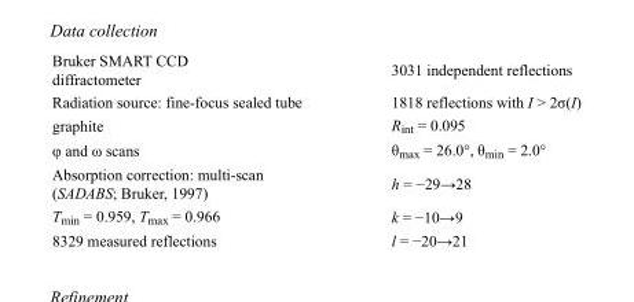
<table><tbody><tr><td>Bruker SMART CCD diffractometer</td><td>3031 independent reflections</td></tr><tr><td>Radiation source: fine-focus sealed tube</td><td>1818 reflections with I &gt; 2σ(I)</td></tr><tr><td>graphite</td><td>R<sub>int</sub> = 0.095</td></tr><tr><td>φ and ω scans</td><td>θ<sub>max</sub> = 26.0°, θ<sub>min</sub> = 2.0°</td></tr><tr><td>Absorption correction: multi-scan (SADABS; Bruker, 1997)</td><td>h = −29→28</td></tr><tr><td>T<sub>min</sub> = 0.959, T<sub>max</sub> = 0.966</td><td>k = −10→9</td></tr><tr><td>8329 measured reflections</td><td>l = −20→21</td></tr></tbody></table>